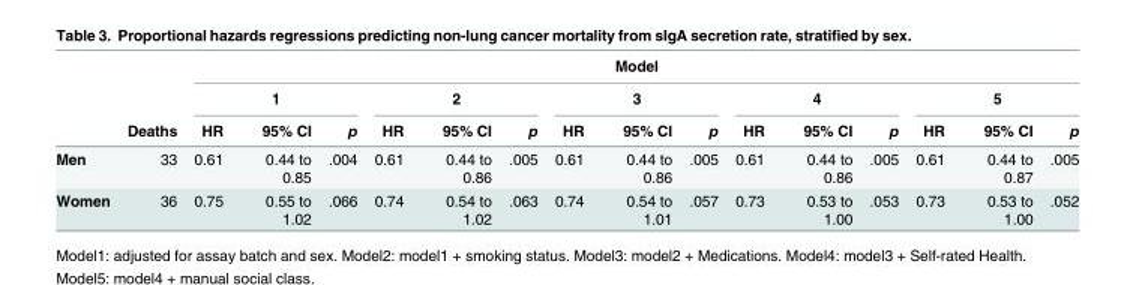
<table><thead><tr><td rowspan="3"></td><td rowspan="3">Deaths</td><td colspan="15">Model</td></tr><tr><td colspan="3">1</td><td colspan="3">2</td><td colspan="3">3</td><td colspan="3">4</td><td colspan="3">5</td></tr><tr><td>HR</td><td>95% CI</td><td>p</td><td>HR</td><td>95% CI</td><td>p</td><td>HR</td><td>95% CI</td><td>p</td><td>HR</td><td>95% CI</td><td>p</td><td>HR</td><td>95% CI</td><td>p</td></tr></thead><tbody><tr><td>Men</td><td>33</td><td>0.61</td><td>0.44 to 0.85</td><td>.004</td><td>0.61</td><td>0.44 to 0.86</td><td>.005</td><td>0.61</td><td>0.44 to 0.86</td><td>.005</td><td>0.61</td><td>0.44 to 0.86</td><td>.005</td><td>0.61</td><td>0.44 to 0.87</td><td>.005</td></tr><tr><td>Women</td><td>36</td><td>0.75</td><td>0.55 to 1.02</td><td>.066</td><td>0.74</td><td>0.54 to 1.02</td><td>.063</td><td>0.74</td><td>0.54 to 1.01</td><td>.057</td><td>0.73</td><td>0.53 to 1.00</td><td>.053</td><td>0.73</td><td>0.53 to 1.00</td><td>.052</td></tr></tbody></table>